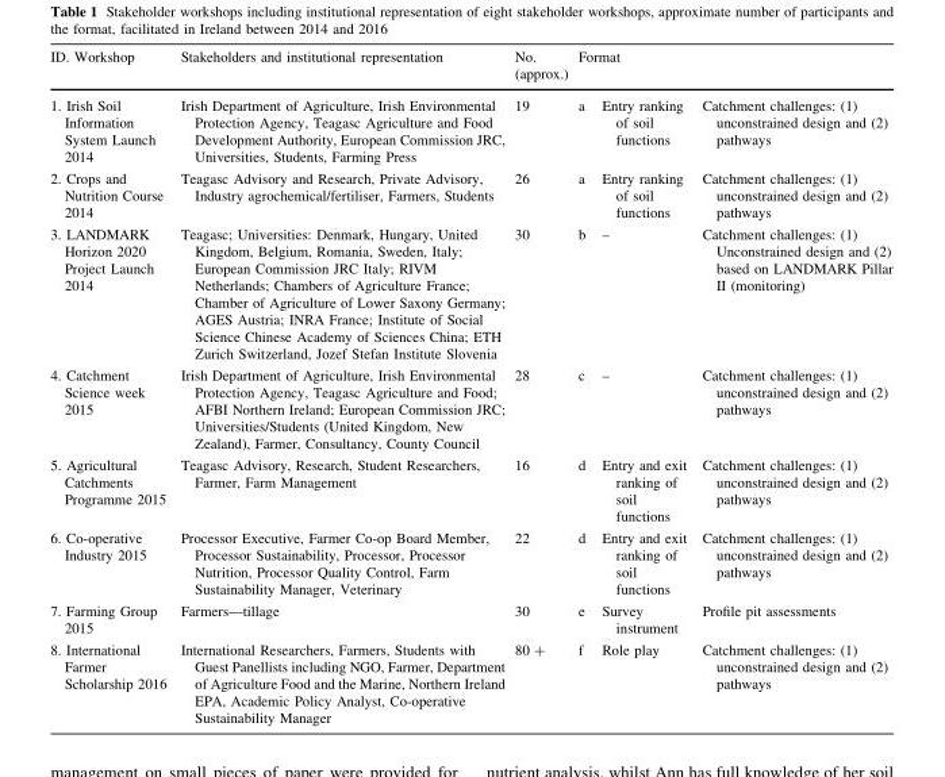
<table><thead><tr><td rowspan="2">ID. Workshop 1. Irish Soil Information System Launch 2014</td><td rowspan="2">Stakeholders and institutional representation Irish Department of Agriculture, Irish Environmental Protection Agency, Teagasc Agriculture and Food Development Authority, European Commission JRC, Universities, Students, Farming Press</td><td rowspan="2">No. (approx.) 19</td><td colspan="3">Format</td></tr><tr><td>a</td><td>Entry ranking of soil functions</td><td>Catchment challenges: (1) unconstrained design and (2) pathways</td></tr></thead><tbody><tr><td>2. Crops and Nutrition Course 2014</td><td>Teagasc Advisory and Research, Private Advisory, Industry agrochemical/fertiliser, Farmers, Students</td><td>26</td><td>a</td><td>Entry ranking of soil functions</td><td>Catchment challenges: (1) unconstrained design and (2) pathways</td></tr><tr><td>3. LANDMARK Horizon 2020 Project Launch 2014</td><td>Teagasc; Universities: Denmark, Hungary, United Kingdom, Belgium, Romania, Sweden, Italy; European Commission JRC Italy; RIVM Netherlands; Chambers of Agriculture France; Chamber of Agriculture of Lower Saxony Germany; AGES Austria; INRA France; Institute of Social Science Chinese Academy of Sciences China; ETH Zurich Switzerland, Jozef Stefan Institute Slovenia</td><td>30</td><td>b</td><td>–</td><td>Catchment challenges: (1) Unconstrained design and (2) based on LANDMARK Pillar II (monitoring)</td></tr><tr><td>4. Catchment Science week 2015</td><td>Irish Department of Agriculture, Irish Environmental Protection Agency, Teagasc Agriculture and Food; AFBI Northern Ireland; European Commission JRC; Universities/Students (United Kingdom, New Zealand), Farmer, Consultancy, County Council</td><td>28</td><td>c</td><td>–</td><td>Catchment challenges: (1) unconstrained design and (2) pathways</td></tr><tr><td>5. Agricultural Catchments Programme 2015</td><td>Teagasc Advisory, Research, Student Researchers, Farmer, Farm Management</td><td>16</td><td>d</td><td>Entry and exit ranking of soil functions</td><td>Catchment challenges: (1) unconstrained design and (2) pathways</td></tr><tr><td>6. Co-operative Industry 2015</td><td>Processor Executive, Farmer Co-op Board Member, Processor Sustainability, Processor, Processor Nutrition, Processor Quality Control, Farm Sustainability Manager, Veterinary</td><td>22</td><td>d</td><td>Entry and exit ranking of soil functions</td><td>Catchment challenges: (1) unconstrained design and (2) pathways</td></tr><tr><td>7. Farming Group 2015</td><td>Farmers—tillage</td><td>30</td><td>e</td><td>Survey instrument</td><td>Profile pit assessments</td></tr><tr><td>8. International Farmer Scholarship 2016</td><td>International Researchers, Farmers, Students with Guest Panellists including NGO, Farmer, Department of Agriculture Food and the Marine, Northern Ireland EPA, Academic Policy Analyst, Co-operative Sustainability Manager</td><td>80 +</td><td>f</td><td>Role play</td><td>Catchment challenges: (1) unconstrained design and (2) pathways</td></tr></tbody></table>